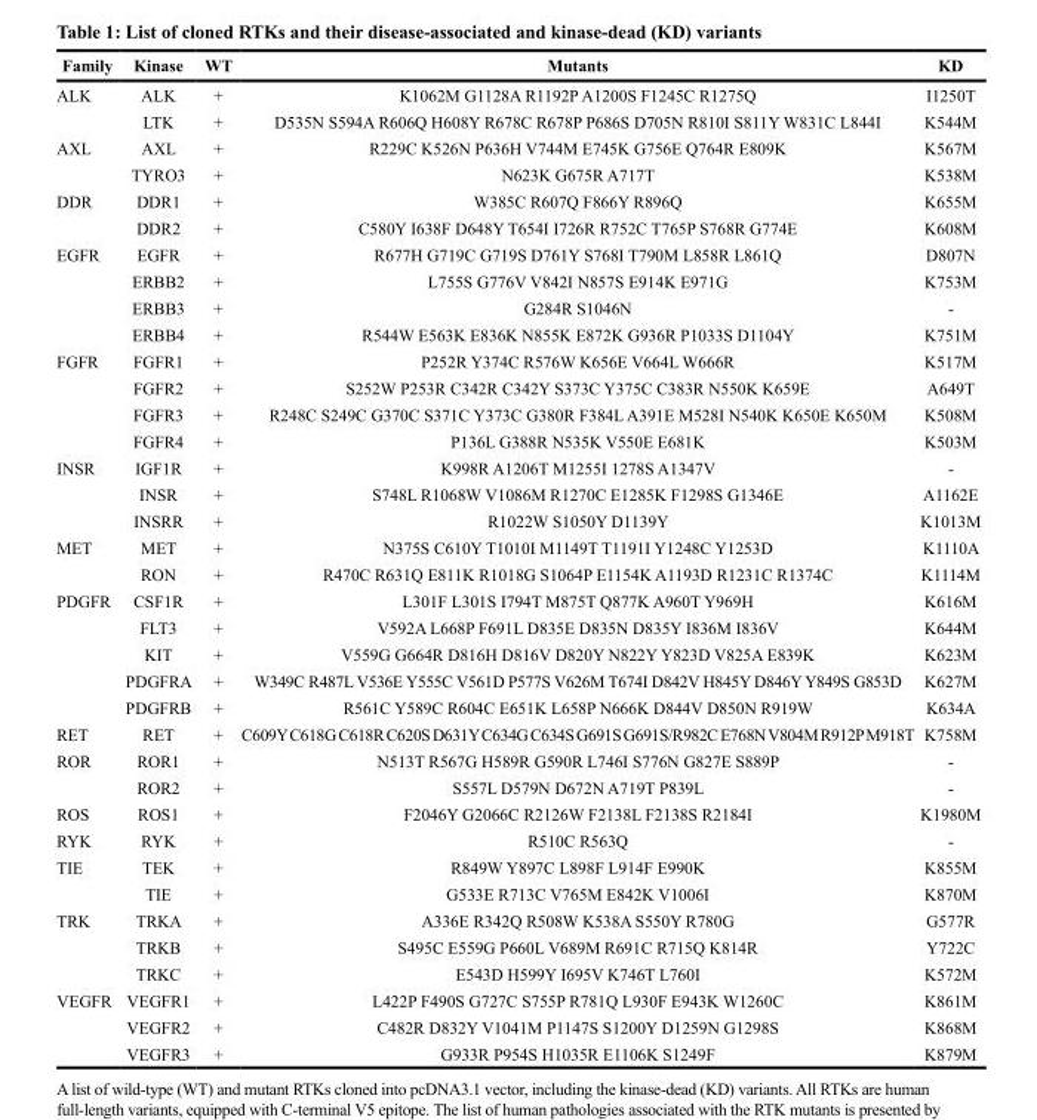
<table><thead><tr><td>Family</td><td>Kinase</td><td>WT</td><td>Mutants</td><td>KD</td></tr></thead><tbody><tr><td rowspan="2">ALK</td><td>ALK</td><td>+</td><td>K1062M G1128A R1192P A1200S F1245C R1275Q</td><td>I1250T</td></tr><tr><td>LTK</td><td>+</td><td>D535N S594A R606Q H608Y R678C R678P P686S D705N R810I S811Y W831C L844I</td><td>K544M</td></tr><tr><td rowspan="2">AXL</td><td>AXL</td><td>+</td><td>R229C K526N P636H V744M E745K G756E Q764R E809K</td><td>K567M</td></tr><tr><td>TYRO3</td><td>+</td><td>N623K G675R A717T</td><td>K538M</td></tr><tr><td rowspan="2">DDR</td><td>DDR1</td><td>+</td><td>W385C R607Q F866Y R896Q</td><td>K655M</td></tr><tr><td>DDR2</td><td>+</td><td>C580Y I638F D648Y T654I I726R R752C T765P S768R G774E</td><td>K608M</td></tr><tr><td rowspan="4">EGFR</td><td>EGFR</td><td>+</td><td>R677H G719C G719S D761Y S768I T790M L858R L861Q</td><td>D807N</td></tr><tr><td>ERBB2</td><td>+</td><td>L755S G776V V842I N857S E914K E971G</td><td>K753M</td></tr><tr><td>ERBB3</td><td>+</td><td>G284R S1046N</td><td>-</td></tr><tr><td>ERBB4</td><td>+</td><td>R544W E563K E836K N855K E872K G936R P1033S D1104Y</td><td>K751M</td></tr><tr><td rowspan="4">FGFR</td><td>FGFR1</td><td>+</td><td>P252R Y374C R576W K656E V664L W666R</td><td>K517M</td></tr><tr><td>FGFR2</td><td>+</td><td>S252W P253R C342R C342Y S373C Y375C C383R N550K K659E</td><td>A649T</td></tr><tr><td>FGFR3</td><td>+</td><td>R248C S249C G370C S371C Y373C G380R F384L A391E M528I N540K K650E K650M</td><td>K508M</td></tr><tr><td>FGFR4</td><td>+</td><td>P136L G388R N535K V550E E681K</td><td>K503M</td></tr><tr><td rowspan="3">INSR</td><td>IGF1R</td><td>+</td><td>K998R A1206T M1255I 1278S A1347V</td><td>-</td></tr><tr><td>INSR</td><td>+</td><td>S748L R1068W V1086M R1270C E1285K F1298S G1346E</td><td>A1162E</td></tr><tr><td>INSRR</td><td>+</td><td>R1022W S1050Y D1139Y</td><td>K1013M</td></tr><tr><td rowspan="2">MET</td><td>MET</td><td>+</td><td>N375S C610Y T1010I M1149T T1191I Y1248C Y1253D</td><td>K1110A</td></tr><tr><td>RON</td><td>+</td><td>R470C R631Q E811K R1018G S1064P E1154K A1193D R1231C R1374C</td><td>K1114M</td></tr><tr><td rowspan="5">PDGFR</td><td>CSF1R</td><td>+</td><td>L301F L301S I794T M875T Q877K A960T Y969H</td><td>K616M</td></tr><tr><td>FLT3</td><td>+</td><td>V592A L668P F691L D835E D835N D835Y I836M I836V</td><td>K644M</td></tr><tr><td>KIT</td><td>+</td><td>V559G G664R D816H D816V D820Y N822Y Y823D V825A E839K</td><td>K623M</td></tr><tr><td>PDGFRA</td><td>+</td><td>W349C R487L V536E Y555C V561D P577S V626M T674I D842V H845Y D846Y Y849S G853D</td><td>K627M</td></tr><tr><td>PDGFRB</td><td>+</td><td>R561C Y589C R604C E651K L658P N666K D844V D850N R919W</td><td>K634A</td></tr><tr><td>RET</td><td>RET</td><td>+</td><td>C609Y C618G C618R C620S D631Y C634G C634S G691S G691S/R982C E768N V804M R912P M918T</td><td>K758M</td></tr><tr><td rowspan="2">ROR</td><td>ROR1</td><td>+</td><td>N513T R567G H589R G590R L746I S776N G827E S889P</td><td>-</td></tr><tr><td>ROR2</td><td>+</td><td>S557L D579N D672N A719T P839L</td><td>-</td></tr><tr><td>ROS</td><td>ROS1</td><td>+</td><td>F2046Y G2066C R2126W F2138L F2138S R2184I</td><td>K1980M</td></tr><tr><td>RYK</td><td>RYK</td><td>+</td><td>R510C R563Q</td><td>-</td></tr><tr><td rowspan="2">TIE</td><td>TEK</td><td>+</td><td>R849W Y897C L898F L914F E990K</td><td>K855M</td></tr><tr><td>TIE</td><td>+</td><td>G533E R713C V765M E842K V1006I</td><td>K870M</td></tr><tr><td rowspan="3">TRK</td><td>TRKA</td><td>+</td><td>A336E R342Q R508W K538A S550Y R780G</td><td>G577R</td></tr><tr><td>TRKB</td><td>+</td><td>S495C E559G P660L V689M R691C R715Q K814R</td><td>Y722C</td></tr><tr><td>TRKC</td><td>+</td><td>E543D H599Y I695V K746T L760I</td><td>K572M</td></tr><tr><td rowspan="3">VEGFR</td><td>VEGFR1</td><td>+</td><td>L422P F490S G727C S755P R781Q L930F E943K W1260C</td><td>K861M</td></tr><tr><td>VEGFR2</td><td>+</td><td>C482R D832Y V1041M P1147S S1200Y D1259N G1298S</td><td>K868M</td></tr><tr><td>VEGFR3</td><td>+</td><td>G933R P954S H1035R E1106K S1249F</td><td>K879M</td></tr></tbody></table>